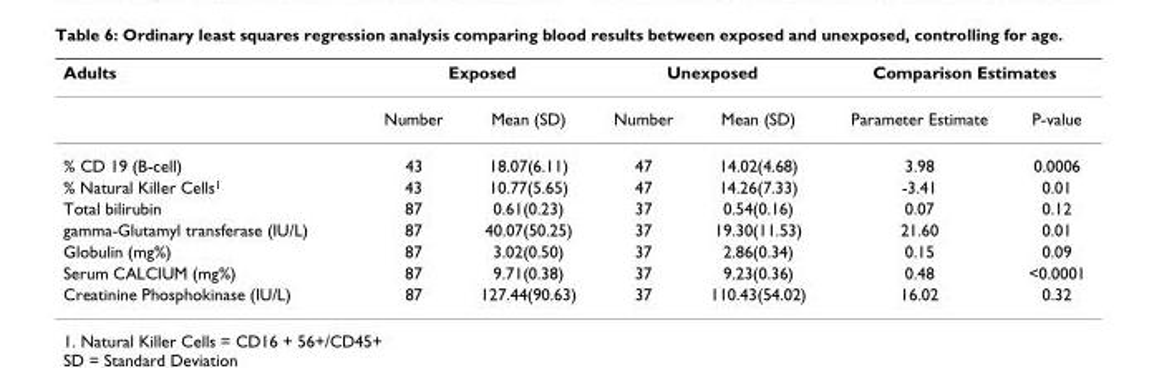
<table><thead><tr><td rowspan="2">Adults</td><td colspan="2">Exposed</td><td colspan="2">Unexposed</td><td colspan="2">Comparison Estimates</td></tr><tr><td>Number</td><td>Mean (SD)</td><td>Number</td><td>Mean (SD)</td><td>Parameter Estimate</td><td>P-value</td></tr></thead><tbody><tr><td>% CD 19 (B-cell)</td><td>43</td><td>18.07(6.11)</td><td>47</td><td>14.02(4.68)</td><td>3.98</td><td>0.0006</td></tr><tr><td>% Natural Killer Cells<sup>1</sup></td><td>43</td><td>10.77(5.65)</td><td>47</td><td>14.26(7.33)</td><td>-3.41</td><td>0.01</td></tr><tr><td>Total bilirubin</td><td>87</td><td>0.61(0.23)</td><td>37</td><td>0.54(0.16)</td><td>0.07</td><td>0.12</td></tr><tr><td>gamma-Glutamyl transferase (IU/L)</td><td>87</td><td>40.07(50.25)</td><td>37</td><td>19.30(11.53)</td><td>21.60</td><td>0.01</td></tr><tr><td>Globulin (mg%)</td><td>87</td><td>3.02(0.50)</td><td>37</td><td>2.86(0.34)</td><td>0.15</td><td>0.09</td></tr><tr><td>Serum CALCIUM (mg%)</td><td>87</td><td>9.71(0.38)</td><td>37</td><td>9.23(0.36)</td><td>0.48</td><td>&lt;0.0001</td></tr><tr><td>Creatinine Phosphokinase (IU/L)</td><td>87</td><td>127.44(90.63)</td><td>37</td><td>110.43(54.02)</td><td>16.02</td><td>0.32</td></tr></tbody></table>